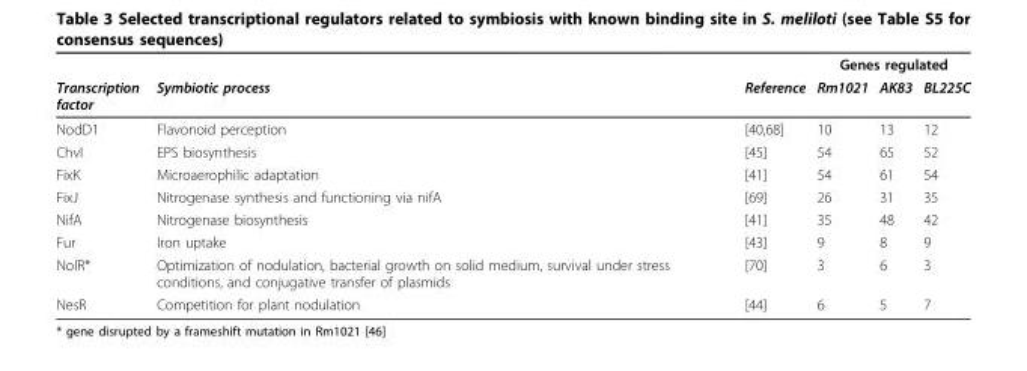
<table><thead><tr><td rowspan="2">Transcription factor</td><td rowspan="2">Symbiotic process</td><td rowspan="2">Reference</td><td colspan="3">Genes regulated</td></tr><tr><td>Rm1021</td><td>AK83</td><td>BL225C</td></tr></thead><tbody><tr><td>NodD1</td><td>Flavonoid perception</td><td>[40,68]</td><td>10</td><td>13</td><td>12</td></tr><tr><td>ChvI</td><td>EPS biosynthesis</td><td>[45]</td><td>54</td><td>65</td><td>52</td></tr><tr><td>FixK</td><td>Microaerophilic adaptation</td><td>[41]</td><td>54</td><td>61</td><td>54</td></tr><tr><td>FixJ</td><td>Nitrogenase synthesis and functioning via nifA</td><td>[69]</td><td>26</td><td>31</td><td>35</td></tr><tr><td>NifA</td><td>Nitrogenase biosynthesis</td><td>[41]</td><td>35</td><td>48</td><td>42</td></tr><tr><td>Fur</td><td>Iron uptake</td><td>[43]</td><td>9</td><td>8</td><td>9</td></tr><tr><td>NolR*</td><td>Optimization of nodulation, bacterial growth on solid medium, survival under stress conditions, and conjugative transfer of plasmids</td><td>[70]</td><td>3</td><td>6</td><td>3</td></tr><tr><td>NesR</td><td>Competition for plant nodulation</td><td>[44]</td><td>6</td><td>5</td><td>7</td></tr></tbody></table>